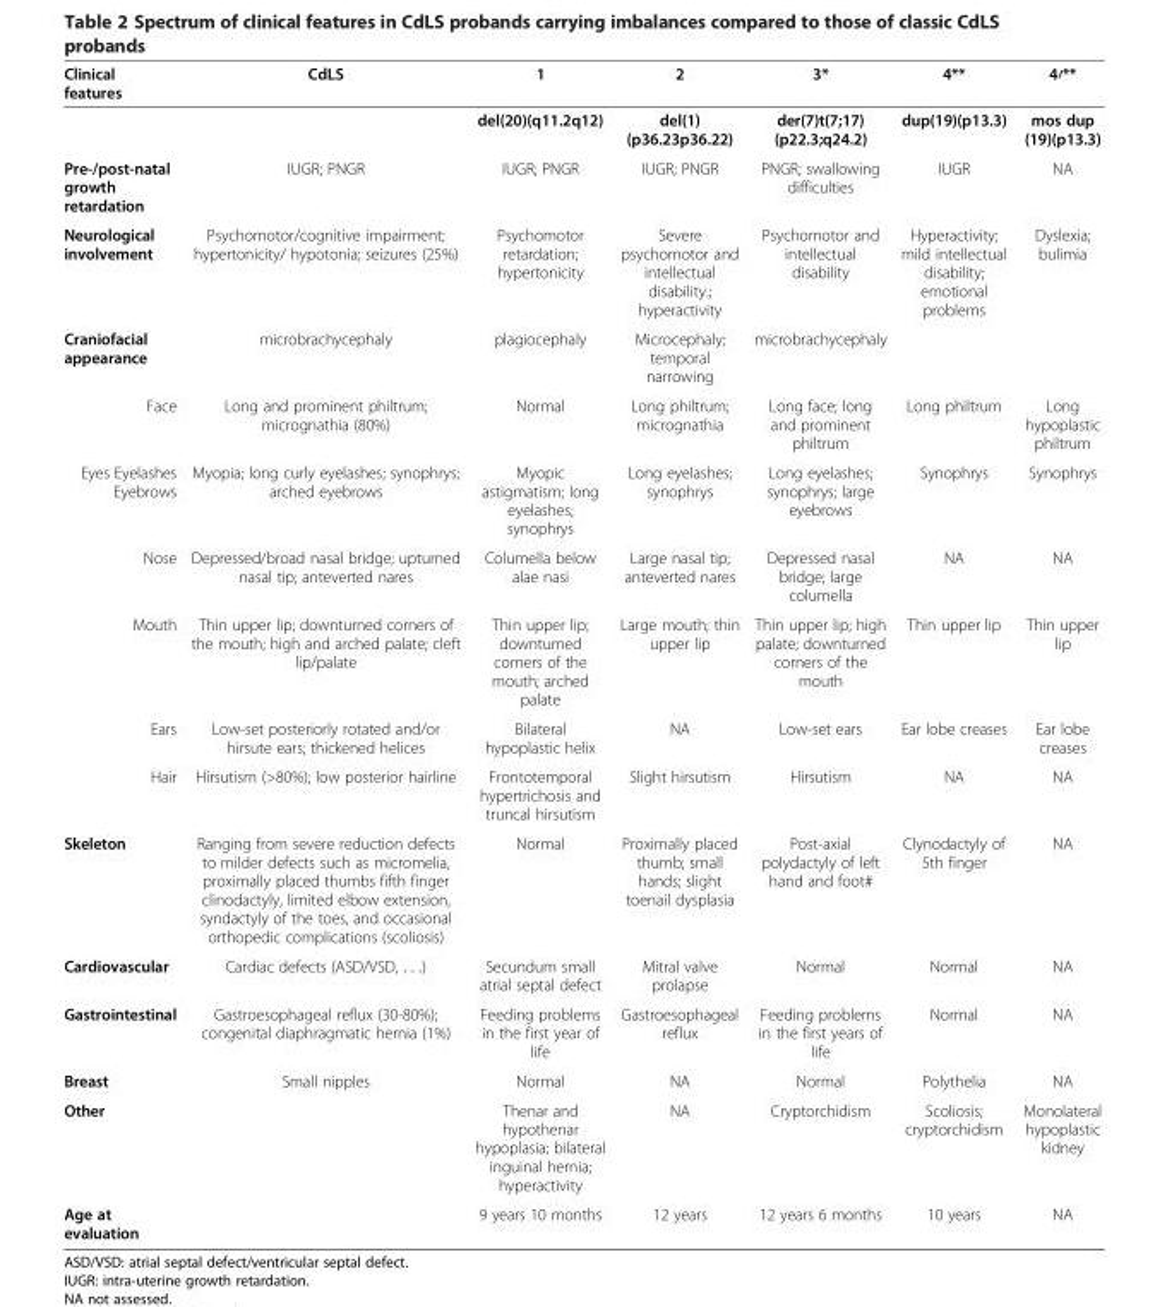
<table><thead><tr><td>Clinical features</td><td>CdLS</td><td>1</td><td>2</td><td>3*</td><td>4**</td><td>4′**</td></tr></thead><tbody><tr><td></td><td></td><td>del(20)(q11.2q12)</td><td>del(1) (p36.23p36.22)</td><td>der(7)t(7;17) (p22.3;q24.2)</td><td>dup(19)(p13.3)</td><td>mos dup (19)(p13.3)</td></tr><tr><td>Pre-/post-natal growth retardation</td><td>IUGR; PNGR</td><td>IUGR; PNGR</td><td>IUGR; PNGR</td><td>PNGR; swallowing difficulties</td><td>IUGR</td><td>NA</td></tr><tr><td>Neurological involvement</td><td>Psychomotor/cognitive impairment; hypertonicity/ hypotonia; seizures (25%)</td><td>Psychomotor retardation; hypertonicity</td><td>Severe psychomotor and intellectual disability.; hyperactivity</td><td>Psychomotor and intellectual disability</td><td>Hyperactivity; mild intellectual disability; emotional problems</td><td>Dyslexia; bulimia</td></tr><tr><td>Craniofacial appearance</td><td>microbrachycephaly</td><td>plagiocephaly</td><td>Microcephaly; temporal narrowing</td><td>microbrachycephaly</td><td></td><td></td></tr><tr><td>Face</td><td>Long and prominent philtrum; micrognathia (80%)</td><td>Normal</td><td>Long philtrum; micrognathia</td><td>Long face; long and prominent philtrum</td><td>Long philtrum</td><td>Long hypoplastic philtrum</td></tr><tr><td>Eyes Eyelashes Eyebrows</td><td>Myopia; long curly eyelashes; synophrys; arched eyebrows</td><td>Myopic astigmatism; long eyelashes; synophrys</td><td>Long eyelashes; synophrys</td><td>Long eyelashes; synophrys; large eyebrows</td><td>Synophrys</td><td>Synophrys</td></tr><tr><td>Nose</td><td>Depressed/broad nasal bridge; upturned nasal tip; anteverted nares</td><td>Columella below alae nasi</td><td>Large nasal tip; anteverted nares</td><td>Depressed nasal bridge; large columella</td><td>NA</td><td>NA</td></tr><tr><td>Mouth</td><td>Thin upper lip; downturned corners of the mouth; high and arched palate; cleft lip/palate</td><td>Thin upper lip; downturned corners of the mouth; arched palate</td><td>Large mouth; thin upper lip</td><td>Thin upper lip; high palate; downturned corners of the mouth</td><td>Thin upper lip</td><td>Thin upper lip</td></tr><tr><td>Ears</td><td>Low-set posteriorly rotated and/or hirsute ears; thickened helices</td><td>Bilateral hypoplastic helix</td><td>NA</td><td>Low-set ears</td><td>Ear lobe creases</td><td>Ear lobe creases</td></tr><tr><td>Hair</td><td>Hirsutism (&gt;80%); low posterior hairline</td><td>Frontotemporal hypertrichosis and truncal hirsutism</td><td>Slight hirsutism</td><td>Hirsutism</td><td>NA</td><td>NA</td></tr><tr><td>Skeleton</td><td>Ranging from severe reduction defects to milder defects such as micromelia, proximally placed thumbs fifth finger clinodactyly, limited elbow extension, syndactyly of the toes, and occasional orthopedic complications (scoliosis)</td><td>Normal</td><td>Proximally placed thumb; small hands; slight toenail dysplasia</td><td>Post-axial polydactyly of left hand and foot#</td><td>Clynodactyly of 5th finger</td><td>NA</td></tr><tr><td>Cardiovascular</td><td>Cardiac defects (ASD/VSD, . . .)</td><td>Secundum small atrial septal defect</td><td>Mitral valve prolapse</td><td>Normal</td><td>Normal</td><td>NA</td></tr><tr><td>Gastrointestinal</td><td>Gastroesophageal reflux (30-80%); congenital diaphragmatic hernia (1%)</td><td>Feeding problems in the first year of life</td><td>Gastroesophageal reflux</td><td>Feeding problems in the first years of life</td><td>Normal</td><td>NA</td></tr><tr><td>Breast</td><td>Small nipples</td><td>Normal</td><td>NA</td><td>Normal</td><td>Polythelia</td><td>NA</td></tr><tr><td>Other</td><td></td><td>Thenar and hypothenar hypoplasia; bilateral inguinal hernia; hyperactivity</td><td>NA</td><td>Cryptorchidism</td><td>Scoliosis; cryptorchidism</td><td>Monolateral hypoplastic kidney</td></tr><tr><td>Age at evaluation</td><td></td><td>9 years 10 months</td><td>12 years</td><td>12 years 6 months</td><td>10 years</td><td>NA</td></tr></tbody></table>